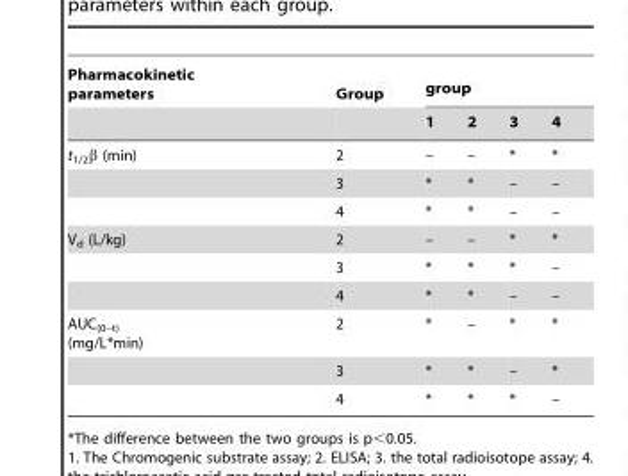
<table><thead><tr><td rowspan="2">Pharmacokinetic parameters</td><td rowspan="2">Group</td><td colspan="4">group</td></tr><tr><td>1</td><td>2</td><td>3</td><td>4</td></tr></thead><tbody><tr><td rowspan="3">t<sub>1/2</sub>β (min)</td><td>2</td><td>–</td><td>–</td><td>*</td><td>*</td></tr><tr><td>3</td><td>*</td><td>*</td><td>–</td><td>–</td></tr><tr><td>4</td><td>*</td><td>*</td><td>–</td><td>–</td></tr><tr><td rowspan="3">V<sub>d</sub> (L/kg)</td><td>2</td><td>–</td><td>–</td><td>*</td><td>*</td></tr><tr><td>3</td><td>*</td><td>*</td><td>*</td><td>–</td></tr><tr><td>4</td><td>*</td><td>*</td><td>–</td><td>–</td></tr><tr><td rowspan="3">AUC<sub>(0–t)</sub> (mg/L*min)</td><td>2</td><td>*</td><td>–</td><td>*</td><td>*</td></tr><tr><td>3</td><td>*</td><td>*</td><td>–</td><td>*</td></tr><tr><td>4</td><td>*</td><td>*</td><td>*</td><td>–</td></tr></tbody></table>